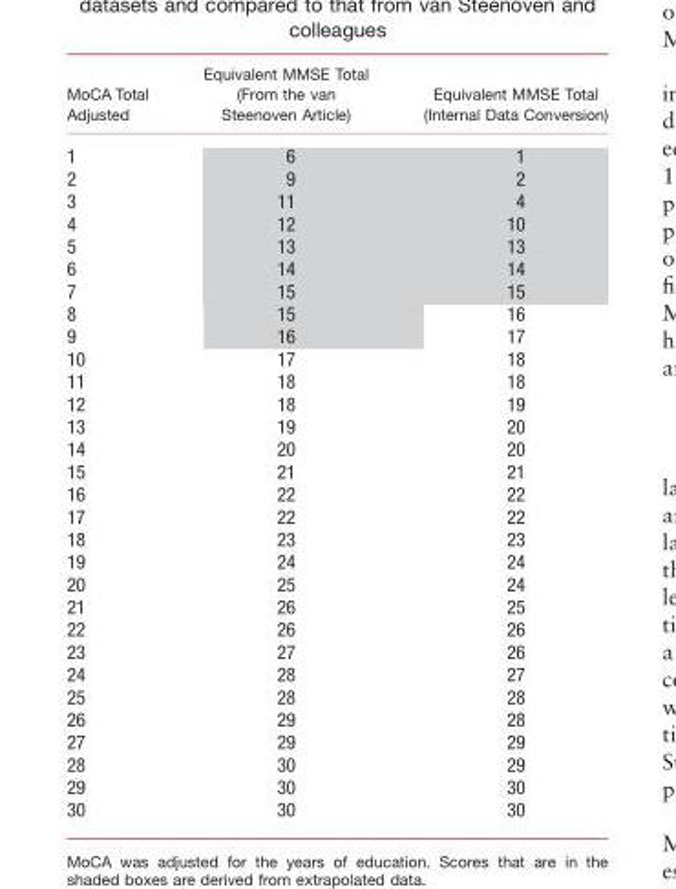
<table><thead><tr><td>MoCA Total Adjusted</td><td>Equivalent MMSE Total (From the van Steenoven Article)</td><td>Equivalent MMSE Total (Internal Data Conversion)</td></tr></thead><tbody><tr><td>1</td><td>6</td><td>1</td></tr><tr><td>2</td><td>9</td><td>2</td></tr><tr><td>3</td><td>11</td><td>4</td></tr><tr><td>4</td><td>12</td><td>10</td></tr><tr><td>5</td><td>13</td><td>13</td></tr><tr><td>6</td><td>14</td><td>14</td></tr><tr><td>7</td><td>15</td><td>15</td></tr><tr><td>8</td><td>15</td><td>16</td></tr><tr><td>9</td><td>16</td><td>17</td></tr><tr><td>10</td><td>17</td><td>18</td></tr><tr><td>11</td><td>18</td><td>18</td></tr><tr><td>12</td><td>18</td><td>19</td></tr><tr><td>13</td><td>19</td><td>20</td></tr><tr><td>14</td><td>20</td><td>20</td></tr><tr><td>15</td><td>21</td><td>21</td></tr><tr><td>16</td><td>22</td><td>22</td></tr><tr><td>17</td><td>22</td><td>22</td></tr><tr><td>18</td><td>23</td><td>23</td></tr><tr><td>19</td><td>24</td><td>24</td></tr><tr><td>20</td><td>25</td><td>24</td></tr><tr><td>21</td><td>26</td><td>25</td></tr><tr><td>22</td><td>26</td><td>26</td></tr><tr><td>23</td><td>27</td><td>26</td></tr><tr><td>24</td><td>28</td><td>27</td></tr><tr><td>25</td><td>28</td><td>28</td></tr><tr><td>26</td><td>29</td><td>28</td></tr><tr><td>27</td><td>29</td><td>29</td></tr><tr><td>28</td><td>30</td><td>29</td></tr><tr><td>29</td><td>30</td><td>30</td></tr><tr><td>30</td><td>30</td><td>30</td></tr></tbody></table>